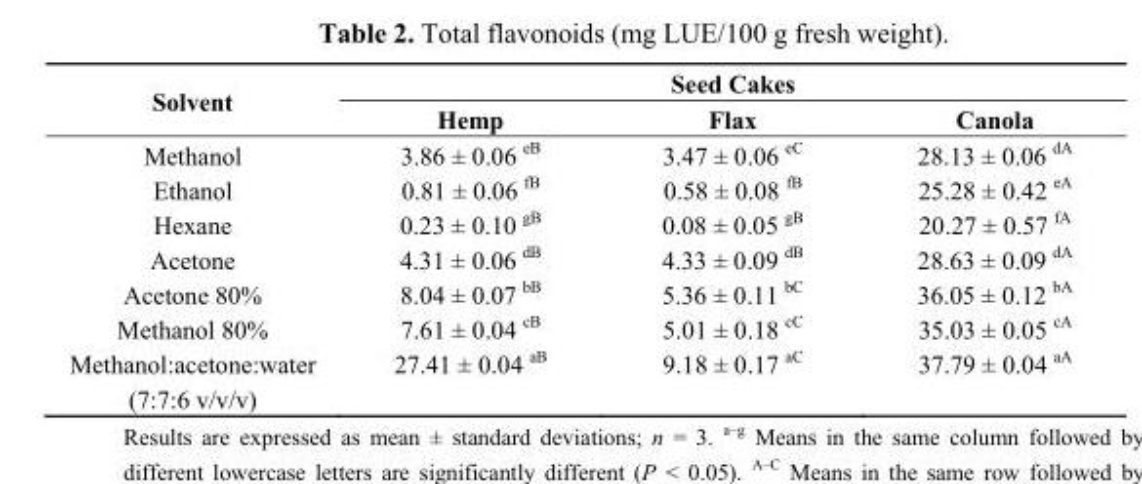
<table><thead><tr><td rowspan="2">Solvent</td><td colspan="3">Seed Cakes</td></tr><tr><td>Hemp</td><td>Flax</td><td>Canola</td></tr></thead><tbody><tr><td>Methanol</td><td>3.86 ± 0.06 <sup>eB</sup></td><td>3.47 ± 0.06 <sup>eC</sup></td><td>28.13 ± 0.06 <sup>dA</sup></td></tr><tr><td>Ethanol</td><td>0.81 ± 0.06 <sup>fB</sup></td><td>0.58 ± 0.08 <sup>fB</sup></td><td>25.28 ± 0.42 <sup>eA</sup></td></tr><tr><td>Hexane</td><td>0.23 ± 0.10 <sup>gB</sup></td><td>0.08 ± 0.05 <sup>gB</sup></td><td>20.27 ± 0.57 <sup>fA</sup></td></tr><tr><td>Acetone</td><td>4.31 ± 0.06 <sup>dB</sup></td><td>4.33 ± 0.09 <sup>dB</sup></td><td>28.63 ± 0.09 <sup>dA</sup></td></tr><tr><td>Acetone 80%</td><td>8.04 ± 0.07 <sup>bB</sup></td><td>5.36 ± 0.11 <sup>bC</sup></td><td>36.05 ± 0.12 <sup>bA</sup></td></tr><tr><td>Methanol 80%</td><td>7.61 ± 0.04 <sup>cB</sup></td><td>5.01 ± 0.18 <sup>cC</sup></td><td>35.03 ± 0.05 <sup>cA</sup></td></tr><tr><td>Methanol:acetone:water (7:7:6 v/v/v)</td><td>27.41 ± 0.04 <sup>aB</sup></td><td>9.18 ± 0.17 <sup>aC</sup></td><td>37.79 ± 0.04 <sup>aA</sup></td></tr></tbody></table>